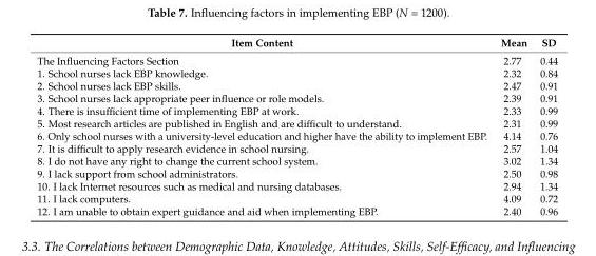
<table><thead><tr><td>Item Content</td><td>Mean</td><td>SD</td></tr></thead><tbody><tr><td>The Influencing Factors Section</td><td>2.77</td><td>0.44</td></tr><tr><td>1. School nurses lack EBP knowledge.</td><td>2.32</td><td>0.84</td></tr><tr><td>2. School nurses lack EBP skills.</td><td>2.47</td><td>0.91</td></tr><tr><td>3. School nurses lack appropriate peer influence or role models.</td><td>2.39</td><td>0.91</td></tr><tr><td>4. There is insufficient time of implementing EBP at work.</td><td>2.33</td><td>0.99</td></tr><tr><td>5. Most research articles are published in English and are difficult to understand.</td><td>2.31</td><td>0.99</td></tr><tr><td>6. Only school nurses with a university-level education and higher have the ability to implement EBP.</td><td>4.14</td><td>0.76</td></tr><tr><td>7. It is difficult to apply research evidence in school nursing.</td><td>2.57</td><td>1.04</td></tr><tr><td>8. I do not have any right to change the current school system.</td><td>3.02</td><td>1.34</td></tr><tr><td>9. I lack support from school administrators.</td><td>2.50</td><td>0.98</td></tr><tr><td>10. I lack Internet resources such as medical and nursing databases.</td><td>2.94</td><td>1.34</td></tr><tr><td>11. I lack computers.</td><td>4.09</td><td>0.72</td></tr><tr><td>12. I am unable to obtain expert guidance and aid when implementing EBP.</td><td>2.40</td><td>0.96</td></tr></tbody></table>